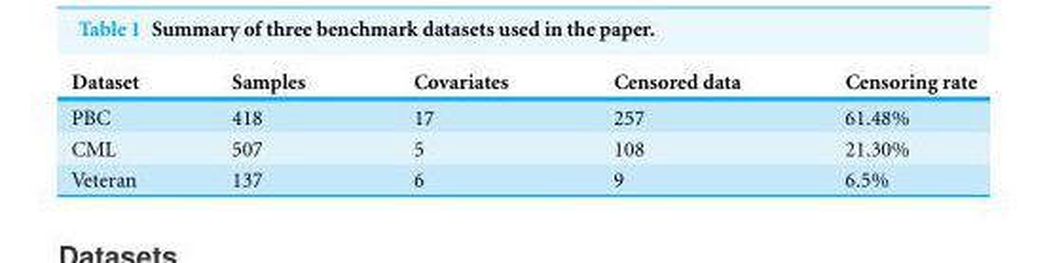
<table><thead><tr><td>Dataset</td><td>Samples</td><td>Covariates</td><td>Censored data</td><td>Censoring rate</td></tr></thead><tbody><tr><td>PBC</td><td>418</td><td>17</td><td>257</td><td>61.48%</td></tr><tr><td>CML</td><td>507</td><td>5</td><td>108</td><td>21.30%</td></tr><tr><td>Veteran</td><td>137</td><td>6</td><td>9</td><td>6.5%</td></tr></tbody></table>